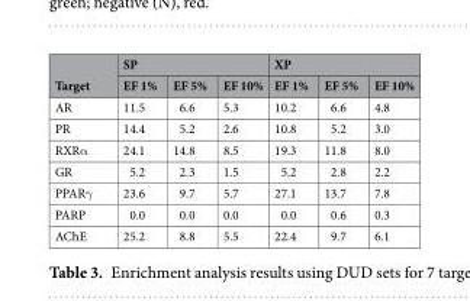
<table><thead><tr><td rowspan="2">Target</td><td colspan="3">SP</td><td colspan="3">XP</td></tr><tr><td>EF 1%</td><td>EF 5%</td><td>EF 10%</td><td>EF 1%</td><td>EF 5%</td><td>EF 10%</td></tr></thead><tbody><tr><td>AR</td><td>11.5</td><td>6.6</td><td>5.3</td><td>10.2</td><td>6.6</td><td>4.8</td></tr><tr><td>PR</td><td>14.4</td><td>5.2</td><td>2.6</td><td>10.8</td><td>5.2</td><td>3.0</td></tr><tr><td>RXRα</td><td>24.1</td><td>14.8</td><td>8.5</td><td>19.3</td><td>11.8</td><td>8.0</td></tr><tr><td>GR</td><td>5.2</td><td>2.3</td><td>1.5</td><td>5.2</td><td>2.8</td><td>2.2</td></tr><tr><td>PPARγ</td><td>23.6</td><td>9.7</td><td>5.7</td><td>27.1</td><td>13.7</td><td>7.8</td></tr><tr><td>PARP</td><td>0.0</td><td>0.0</td><td>0.0</td><td>0.0</td><td>0.6</td><td>0.3</td></tr><tr><td>AChE</td><td>25.2</td><td>8.8</td><td>5.5</td><td>22.4</td><td>9.7</td><td>6.1</td></tr></tbody></table>